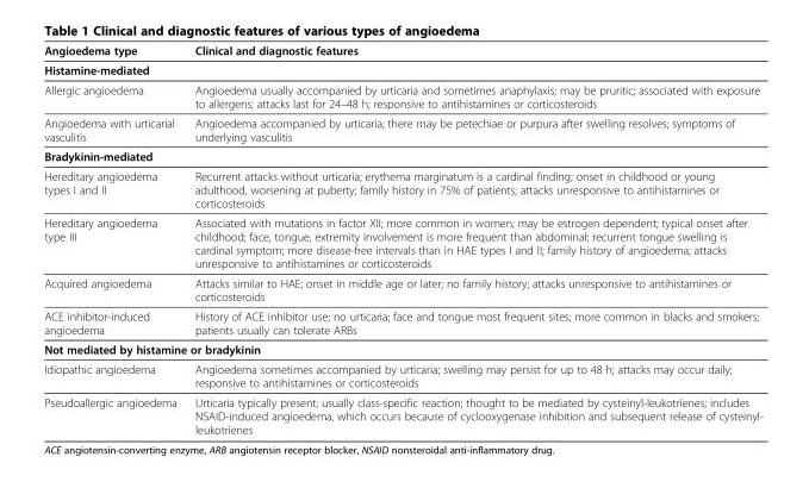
<table><thead><tr><td>Angioedema type</td><td>Clinical and diagnostic features</td></tr></thead><tbody><tr><td colspan="2">Histamine-mediated</td></tr><tr><td>Allergic angioedema</td><td>Angioedema usually accompanied by urticaria and sometimes anaphylaxis; may be pruritic; associated with exposure to allergens; attacks last for 24–48 h; responsive to antihistamines or corticosteroids</td></tr><tr><td>Angioedema with urticarial vasculitis</td><td>Angioedema accompanied by urticaria; there may be petechiae or purpura after swelling resolves; symptoms of underlying vasculitis</td></tr><tr><td colspan="2">Bradykinin-mediated</td></tr><tr><td>Hereditary angioedema types I and II</td><td>Recurrent attacks without urticaria; erythema marginatum is a cardinal finding; onset in childhood or young adulthood, worsening at puberty; family history in 75% of patients; attacks unresponsive to antihistamines or corticosteroids</td></tr><tr><td>Hereditary angioedema type III</td><td>Associated with mutations in factor XII; more common in women; may be estrogen dependent; typical onset after childhood; face, tongue, extremity involvement is more frequent than abdominal; recurrent tongue swelling is cardinal symptom; more disease-free intervals than in HAE types I and II; family history of angioedema; attacks unresponsive to antihistamines or corticosteroids</td></tr><tr><td>Acquired angioedema</td><td>Attacks similar to HAE; onset in middle age or later; no family history; attacks unresponsive to antihistamines or corticosteroids</td></tr><tr><td>ACE inhibitor-induced angioedema</td><td>History of ACE inhibitor use; no urticaria; face and tongue most frequent sites; more common in blacks and smokers; patients usually can tolerate ARBs</td></tr><tr><td colspan="2">Not mediated by histamine or bradykinin</td></tr><tr><td>Idiopathic angioedema</td><td>Angioedema sometimes accompanied by urticaria; swelling may persist for up to 48 h; attacks may occur daily; responsive to antihistamines or corticosteroids</td></tr><tr><td>Pseudoallergic angioedema</td><td>Urticaria typically present; usually class-specific reaction; thought to be mediated by cysteinyl-leukotrienes; includes NSAID-induced angioedema, which occurs because of cyclooxygenase inhibition and subsequent release of cysteinyl- leukotrienes</td></tr></tbody></table>